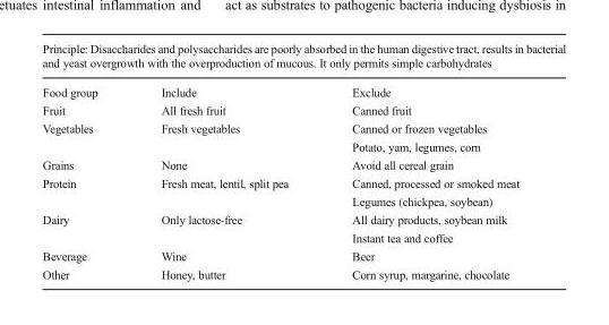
<table><thead><tr><td colspan="3">Principle: Disaccharides and polysaccharides are poorly absorbed in the human digestive tract, results in bacterial and yeast overgrowth with the overproduction of mucous. It only permits simple carbohydrates</td></tr><tr><td>Food group</td><td>Include</td><td>Exclude</td></tr></thead><tbody><tr><td>Fruit</td><td>All fresh fruit</td><td>Canned fruit</td></tr><tr><td>Vegetables</td><td>Fresh vegetables</td><td>Canned or frozen vegetables Potato, yam, legumes, corn</td></tr><tr><td>Grains</td><td>None</td><td>Avoid all cereal grain</td></tr><tr><td>Protein</td><td>Fresh meat, lentil, split pea</td><td>Canned, processed or smoked meat Legumes (chickpea, soybean)</td></tr><tr><td>Dairy</td><td>Only lactose-free</td><td>All dairy products, soybean milk Instant tea and coffee</td></tr><tr><td>Beverage</td><td>Wine</td><td>Beer</td></tr><tr><td>Other</td><td>Honey, butter</td><td>Corn syrup, margarine, chocolate</td></tr></tbody></table>